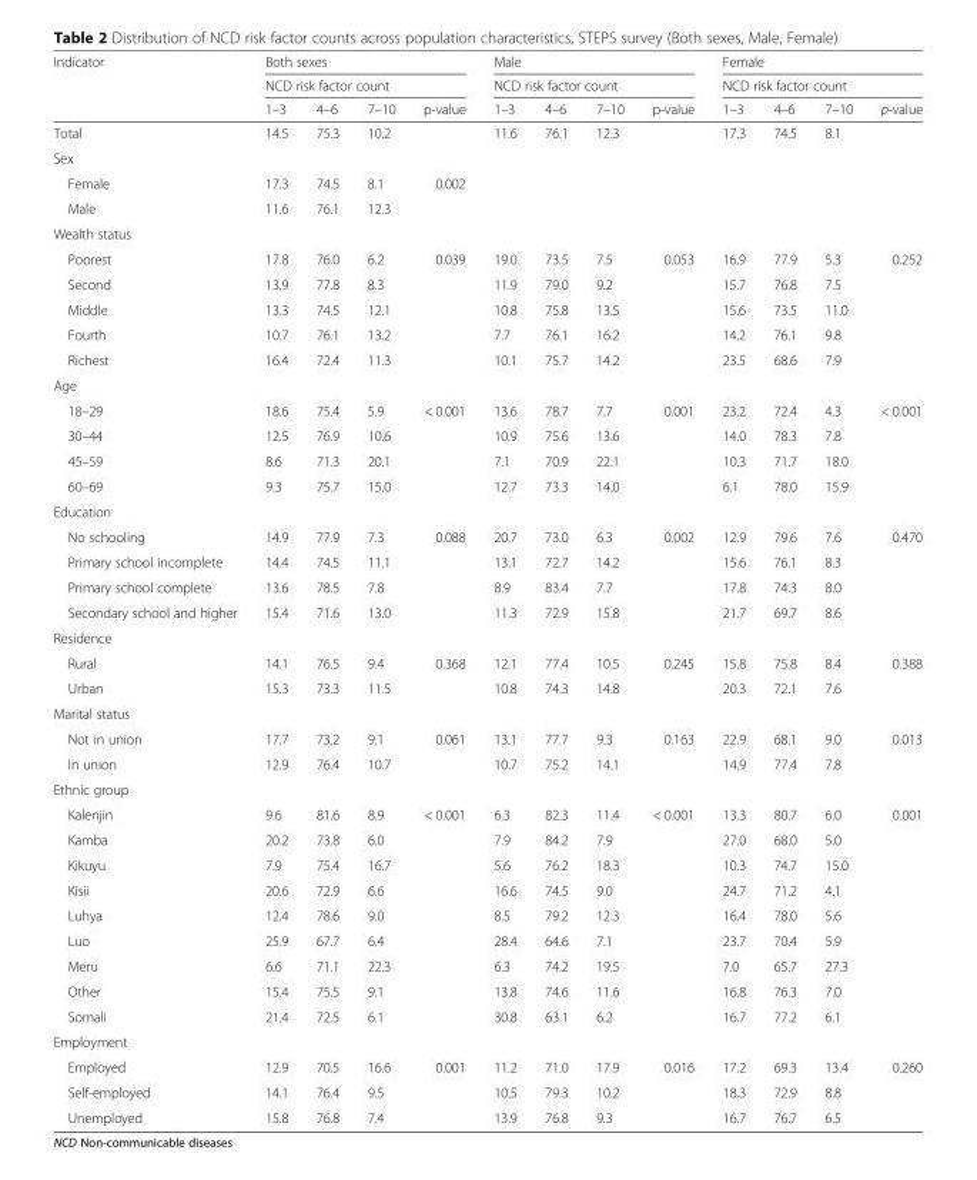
<table><thead><tr><td rowspan="3">Indicator</td><td rowspan="2" colspan="4">Both sexes NCD risk factor count</td><td rowspan="2" colspan="4">Male NCD risk factor count</td><td rowspan="2" colspan="4">Female NCD risk factor count</td></tr><tr></tr><tr><td>1–3</td><td>4–6</td><td>7–10</td><td>p-value</td><td>1–3</td><td>4–6</td><td>7–10</td><td>p-value</td><td>1–3</td><td>4–6</td><td>7–10</td><td>p-value</td></tr></thead><tbody><tr><td>Total</td><td>14.5</td><td>75.3</td><td>10.2</td><td></td><td>11.6</td><td>76.1</td><td>12.3</td><td></td><td>17.3</td><td>74.5</td><td>8.1</td><td></td></tr><tr><td colspan="13">Sex</td></tr><tr><td>Female</td><td>17.3</td><td>74.5</td><td>8.1</td><td>0.002</td><td></td><td></td><td></td><td></td><td></td><td></td><td></td><td></td></tr><tr><td>Male</td><td>11.6</td><td>76.1</td><td>12.3</td><td></td><td></td><td></td><td></td><td></td><td></td><td></td><td></td><td></td></tr><tr><td colspan="13">Wealth status</td></tr><tr><td>Poorest</td><td>17.8</td><td>76.0</td><td>6.2</td><td>0.039</td><td>19.0</td><td>73.5</td><td>7.5</td><td>0.053</td><td>16.9</td><td>77.9</td><td>5.3</td><td>0.252</td></tr><tr><td>Second</td><td>13.9</td><td>77.8</td><td>8.3</td><td></td><td>11.9</td><td>79.0</td><td>9.2</td><td></td><td>15.7</td><td>76.8</td><td>7.5</td><td></td></tr><tr><td>Middle</td><td>13.3</td><td>74.5</td><td>12.1</td><td></td><td>10.8</td><td>75.8</td><td>13.5</td><td></td><td>15.6</td><td>73.5</td><td>11.0</td><td></td></tr><tr><td>Fourth</td><td>10.7</td><td>76.1</td><td>13.2</td><td></td><td>7.7</td><td>76.1</td><td>16.2</td><td></td><td>14.2</td><td>76.1</td><td>9.8</td><td></td></tr><tr><td>Richest</td><td>16.4</td><td>72.4</td><td>11.3</td><td></td><td>10.1</td><td>75.7</td><td>14.2</td><td></td><td>23.5</td><td>68.6</td><td>7.9</td><td></td></tr><tr><td colspan="13">Age</td></tr><tr><td>18–29</td><td>18.6</td><td>75.4</td><td>5.9</td><td>&lt; 0.001</td><td>13.6</td><td>78.7</td><td>7.7</td><td>0.001</td><td>23.2</td><td>72.4</td><td>4.3</td><td>&lt; 0.001</td></tr><tr><td>30–44</td><td>12.5</td><td>76.9</td><td>10.6</td><td></td><td>10.9</td><td>75.6</td><td>13.6</td><td></td><td>14.0</td><td>78.3</td><td>7.8</td><td></td></tr><tr><td>45–59</td><td>8.6</td><td>71.3</td><td>20.1</td><td></td><td>7.1</td><td>70.9</td><td>22.1</td><td></td><td>10.3</td><td>71.7</td><td>18.0</td><td></td></tr><tr><td>60–69</td><td>9.3</td><td>75.7</td><td>15.0</td><td></td><td>12.7</td><td>73.3</td><td>14.0</td><td></td><td>6.1</td><td>78.0</td><td>15.9</td><td></td></tr><tr><td colspan="13">Education</td></tr><tr><td>No schooling</td><td>14.9</td><td>77.9</td><td>7.3</td><td>0.088</td><td>20.7</td><td>73.0</td><td>6.3</td><td>0.002</td><td>12.9</td><td>79.6</td><td>7.6</td><td>0.470</td></tr><tr><td>Primary school incomplete</td><td>14.4</td><td>74.5</td><td>11.1</td><td></td><td>13.1</td><td>72.7</td><td>14.2</td><td></td><td>15.6</td><td>76.1</td><td>8.3</td><td></td></tr><tr><td>Primary school complete</td><td>13.6</td><td>78.5</td><td>7.8</td><td></td><td>8.9</td><td>83.4</td><td>7.7</td><td></td><td>17.8</td><td>74.3</td><td>8.0</td><td></td></tr><tr><td>Secondary school and higher</td><td>15.4</td><td>71.6</td><td>13.0</td><td></td><td>11.3</td><td>72.9</td><td>15.8</td><td></td><td>21.7</td><td>69.7</td><td>8.6</td><td></td></tr><tr><td colspan="13">Residence</td></tr><tr><td>Rural</td><td>14.1</td><td>76.5</td><td>9.4</td><td>0.368</td><td>12.1</td><td>77.4</td><td>10.5</td><td>0.245</td><td>15.8</td><td>75.8</td><td>8.4</td><td>0.388</td></tr><tr><td>Urban</td><td>15.3</td><td>73.3</td><td>11.5</td><td></td><td>10.8</td><td>74.3</td><td>14.8</td><td></td><td>20.3</td><td>72.1</td><td>7.6</td><td></td></tr><tr><td colspan="13">Marital status</td></tr><tr><td>Not in union</td><td>17.7</td><td>73.2</td><td>9.1</td><td>0.061</td><td>13.1</td><td>77.7</td><td>9.3</td><td>0.163</td><td>22.9</td><td>68.1</td><td>9.0</td><td>0.013</td></tr><tr><td>In union</td><td>12.9</td><td>76.4</td><td>10.7</td><td></td><td>10.7</td><td>75.2</td><td>14.1</td><td></td><td>14.9</td><td>77.4</td><td>7.8</td><td></td></tr><tr><td colspan="13">Ethnic group</td></tr><tr><td>Kalenjin</td><td>9.6</td><td>81.6</td><td>8.9</td><td>&lt; 0.001</td><td>6.3</td><td>82.3</td><td>11.4</td><td>&lt; 0.001</td><td>13.3</td><td>80.7</td><td>6.0</td><td>0.001</td></tr><tr><td>Kamba</td><td>20.2</td><td>73.8</td><td>6.0</td><td></td><td>7.9</td><td>84.2</td><td>7.9</td><td></td><td>27.0</td><td>68.0</td><td>5.0</td><td></td></tr><tr><td>Kikuyu</td><td>7.9</td><td>75.4</td><td>16.7</td><td></td><td>5.6</td><td>76.2</td><td>18.3</td><td></td><td>10.3</td><td>74.7</td><td>15.0</td><td></td></tr><tr><td>Kisii</td><td>20.6</td><td>72.9</td><td>6.6</td><td></td><td>16.6</td><td>74.5</td><td>9.0</td><td></td><td>24.7</td><td>71.2</td><td>4.1</td><td></td></tr><tr><td>Luhya</td><td>12.4</td><td>78.6</td><td>9.0</td><td></td><td>8.5</td><td>79.2</td><td>12.3</td><td></td><td>16.4</td><td>78.0</td><td>5.6</td><td></td></tr><tr><td>Luo</td><td>25.9</td><td>67.7</td><td>6.4</td><td></td><td>28.4</td><td>64.6</td><td>7.1</td><td></td><td>23.7</td><td>70.4</td><td>5.9</td><td></td></tr><tr><td>Meru</td><td>6.6</td><td>71.1</td><td>22.3</td><td></td><td>6.3</td><td>74.2</td><td>19.5</td><td></td><td>7.0</td><td>65.7</td><td>27.3</td><td></td></tr><tr><td>Other</td><td>15.4</td><td>75.5</td><td>9.1</td><td></td><td>13.8</td><td>74.6</td><td>11.6</td><td></td><td>16.8</td><td>76.3</td><td>7.0</td><td></td></tr><tr><td>Somali</td><td>21.4</td><td>72.5</td><td>6.1</td><td></td><td>30.8</td><td>63.1</td><td>6.2</td><td></td><td>16.7</td><td>77.2</td><td>6.1</td><td></td></tr><tr><td colspan="13">Employment</td></tr><tr><td>Employed</td><td>12.9</td><td>70.5</td><td>16.6</td><td>0.001</td><td>11.2</td><td>71.0</td><td>17.9</td><td>0.016</td><td>17.2</td><td>69.3</td><td>13.4</td><td>0.260</td></tr><tr><td>Self-employed</td><td>14.1</td><td>76.4</td><td>9.5</td><td></td><td>10.5</td><td>79.3</td><td>10.2</td><td></td><td>18.3</td><td>72.9</td><td>8.8</td><td></td></tr><tr><td>Unemployed</td><td>15.8</td><td>76.8</td><td>7.4</td><td></td><td>13.9</td><td>76.8</td><td>9.3</td><td></td><td>16.7</td><td>76.7</td><td>6.5</td><td></td></tr></tbody></table>